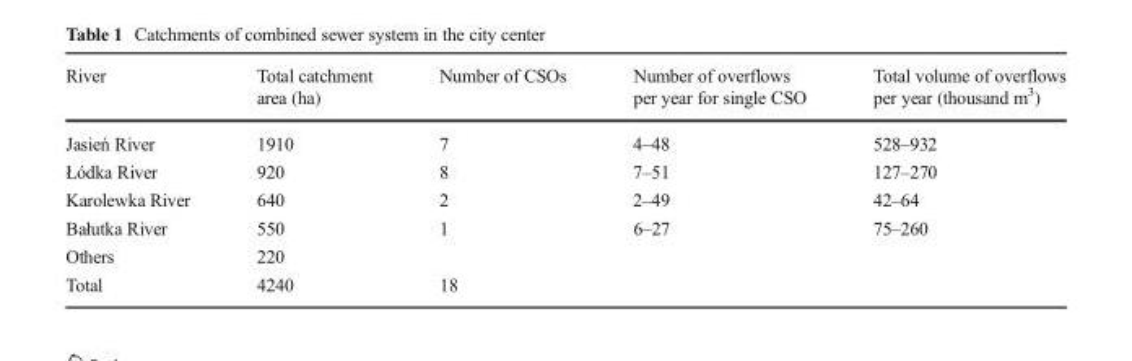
<table><thead><tr><td>River</td><td>Total catchment area (ha)</td><td>Number of CSOs</td><td>Number of overflows per year for single CSO</td><td>Total volume of overflows per year (thousand m<sup>3</sup>)</td></tr></thead><tbody><tr><td>Jasień River</td><td>1910</td><td>7</td><td>4–48</td><td>528–932</td></tr><tr><td>Łódka River</td><td>920</td><td>8</td><td>7–51</td><td>127–270</td></tr><tr><td>Karolewka River</td><td>640</td><td>2</td><td>2–49</td><td>42–64</td></tr><tr><td>Bałutka River</td><td>550</td><td>1</td><td>6–27</td><td>75–260</td></tr><tr><td>Others</td><td>220</td><td></td><td></td><td></td></tr><tr><td>Total</td><td>4240</td><td>18</td><td></td><td></td></tr></tbody></table>